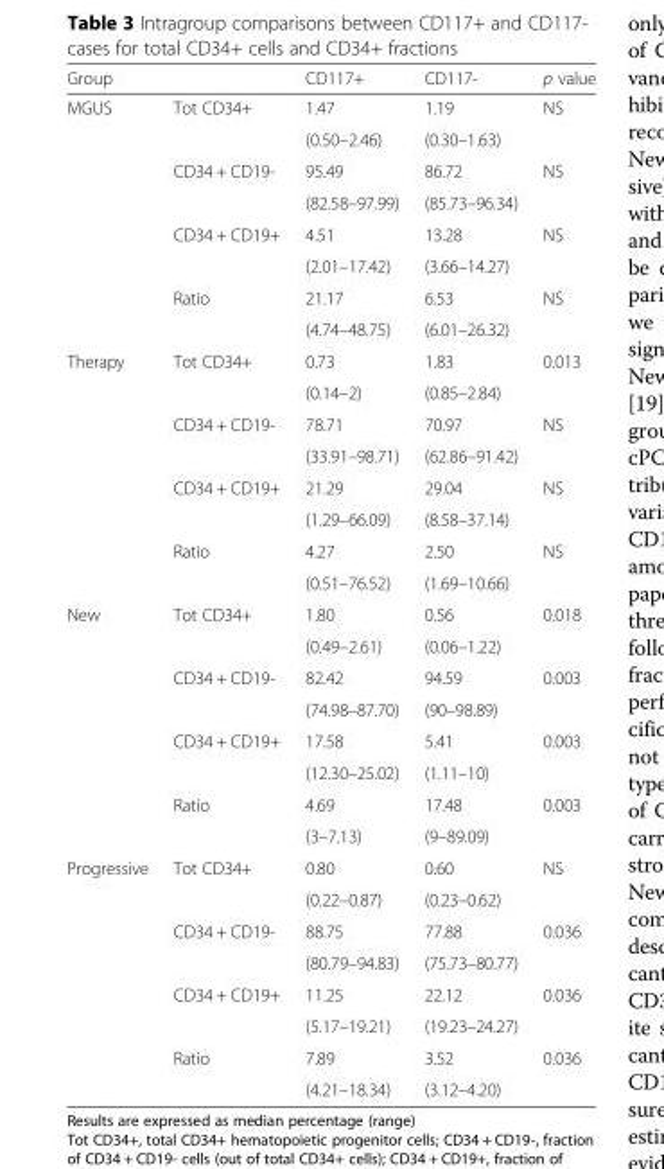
<table><thead><tr><td>Group</td><td></td><td>CD117+</td><td>CD117-</td><td>p value</td></tr></thead><tbody><tr><td rowspan="8">MGUS</td><td>Tot CD34+</td><td>1.47</td><td>1.19</td><td rowspan="2">NS</td></tr><tr><td></td><td>(0.50–2.46)</td><td>(0.30–1.63)</td></tr><tr><td>CD34 + CD19-</td><td>95.49</td><td>86.72</td><td rowspan="2">NS</td></tr><tr><td></td><td>(82.58–97.99)</td><td>(85.73–96.34)</td></tr><tr><td>CD34 + CD19+</td><td>4.51</td><td>13.28</td><td rowspan="2">NS</td></tr><tr><td></td><td>(2.01–17.42)</td><td>(3.66–14.27)</td></tr><tr><td>Ratio</td><td>21.17</td><td>6.53</td><td rowspan="2">NS</td></tr><tr><td></td><td>(4.74–48.75)</td><td>(6.01–26.32)</td></tr><tr><td rowspan="8">Therapy</td><td>Tot CD34+</td><td>0.73</td><td>1.83</td><td rowspan="2">0.013</td></tr><tr><td></td><td>(0.14–2)</td><td>(0.85–2.84)</td></tr><tr><td>CD34 + CD19-</td><td>78.71</td><td>70.97</td><td rowspan="2">NS</td></tr><tr><td></td><td>(33.91–98.71)</td><td>(62.86–91.42)</td></tr><tr><td>CD34 + CD19+</td><td>21.29</td><td>29.04</td><td rowspan="2">NS</td></tr><tr><td></td><td>(1.29–66.09)</td><td>(8.58–37.14)</td></tr><tr><td>Ratio</td><td>4.27</td><td>2.50</td><td rowspan="2">NS</td></tr><tr><td></td><td>(0.51–76.52)</td><td>(1.69–10.66)</td></tr><tr><td rowspan="8">New</td><td>Tot CD34+</td><td>1.80</td><td>0.56</td><td rowspan="2">0.018</td></tr><tr><td></td><td>(0.49–2.61)</td><td>(0.06–1.22)</td></tr><tr><td>CD34 + CD19-</td><td>82.42</td><td>94.59</td><td rowspan="2">0.003</td></tr><tr><td></td><td>(74.98–87.70)</td><td>(90–98.89)</td></tr><tr><td>CD34 + CD19+</td><td>17.58</td><td>5.41</td><td rowspan="2">0.003</td></tr><tr><td></td><td>(12.30–25.02)</td><td>(1.11–10)</td></tr><tr><td>Ratio</td><td>4.69</td><td>17.48</td><td rowspan="2">0.003</td></tr><tr><td></td><td>(3–7.13)</td><td>(9–89.09)</td></tr><tr><td rowspan="8">Progressive</td><td>Tot CD34+</td><td>0.80</td><td>0.60</td><td rowspan="2">NS</td></tr><tr><td></td><td>(0.22–0.87)</td><td>(0.23–0.62)</td></tr><tr><td>CD34 + CD19-</td><td>88.75</td><td>77.88</td><td rowspan="2">0.036</td></tr><tr><td></td><td>(80.79–94.83)</td><td>(75.73–80.77)</td></tr><tr><td>CD34 + CD19+</td><td>11.25</td><td>22.12</td><td rowspan="2">0.036</td></tr><tr><td></td><td>(5.17–19.21)</td><td>(19.23–24.27)</td></tr><tr><td>Ratio</td><td>7.89</td><td>3.52</td><td rowspan="2">0.036</td></tr><tr><td></td><td>(4.21–18.34)</td><td>(3.12–4.20)</td></tr></tbody></table>